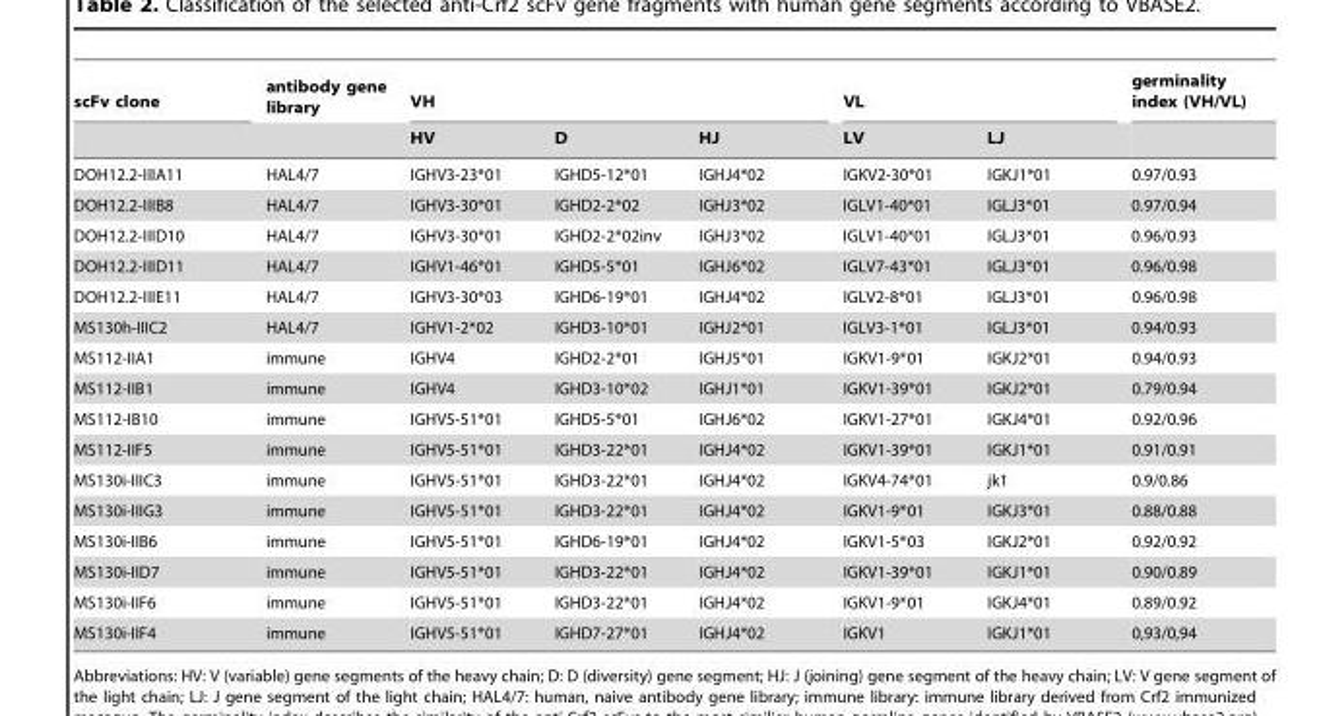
<table><thead><tr><td rowspan="2">scFv clone</td><td rowspan="2">antibody gene library</td><td colspan="3">VH</td><td colspan="2">VL</td><td rowspan="2">germinality index (VH/VL)</td></tr><tr><td>HV</td><td>D</td><td>HJ</td><td>LV</td><td>LJ</td></tr></thead><tbody><tr><td>DOH12.2-IIIA11</td><td>HAL4/7</td><td>IGHV3-23*01</td><td>IGHD5-12*01</td><td>IGHJ4*02</td><td>IGKV2-30*01</td><td>IGKJ1*01</td><td>0.97/0.93</td></tr><tr><td>DOH12.2-IIIB8</td><td>HAL4/7</td><td>IGHV3-30*01</td><td>IGHD2-2*02</td><td>IGHJ3*02</td><td>IGLV1-40*01</td><td>IGLJ3*01</td><td>0.97/0.94</td></tr><tr><td>DOH12.2-IIID10</td><td>HAL4/7</td><td>IGHV3-30*01</td><td>IGHD2-2*02inv</td><td>IGHJ3*02</td><td>IGLV1-40*01</td><td>IGLJ3*01</td><td>0.96/0.93</td></tr><tr><td>DOH12.2-IIID11</td><td>HAL4/7</td><td>IGHV1-46*01</td><td>IGHD5-5*01</td><td>IGHJ6*02</td><td>IGLV7-43*01</td><td>IGLJ3*01</td><td>0.96/0.98</td></tr><tr><td>DOH12.2-IIIE11</td><td>HAL4/7</td><td>IGHV3-30*03</td><td>IGHD6-19*01</td><td>IGHJ4*02</td><td>IGLV2-8*01</td><td>IGLJ3*01</td><td>0.96/0.98</td></tr><tr><td>MS130h-IIIC2</td><td>HAL4/7</td><td>IGHV1-2*02</td><td>IGHD3-10*01</td><td>IGHJ2*01</td><td>IGLV3-1*01</td><td>IGLJ3*01</td><td>0.94/0.93</td></tr><tr><td>MS112-IIA1</td><td>immune</td><td>IGHV4</td><td>IGHD2-2*01</td><td>IGHJ5*01</td><td>IGKV1-9*01</td><td>IGKJ2*01</td><td>0.94/0.93</td></tr><tr><td>MS112-IIB1</td><td>immune</td><td>IGHV4</td><td>IGHD3-10*02</td><td>IGHJ1*01</td><td>IGKV1-39*01</td><td>IGKJ2*01</td><td>0.79/0.94</td></tr><tr><td>MS112-IB10</td><td>immune</td><td>IGHV5-51*01</td><td>IGHD5-5*01</td><td>IGHJ6*02</td><td>IGKV1-27*01</td><td>IGKJ4*01</td><td>0.92/0.96</td></tr><tr><td>MS112-IIF5</td><td>immune</td><td>IGHV5-51*01</td><td>IGHD3-22*01</td><td>IGHJ4*02</td><td>IGKV1-39*01</td><td>IGKJ1*01</td><td>0.91/0.91</td></tr><tr><td>MS130i-IIIC3</td><td>immune</td><td>IGHV5-51*01</td><td>IGHD3-22*01</td><td>IGHJ4*02</td><td>IGKV4-74*01</td><td>jk1</td><td>0.9/0.86</td></tr><tr><td>MS130i-IIIG3</td><td>immune</td><td>IGHV5-51*01</td><td>IGHD3-22*01</td><td>IGHJ4*02</td><td>IGKV1-9*01</td><td>IGKJ3*01</td><td>0.88/0.88</td></tr><tr><td>MS130i-IIB6</td><td>immune</td><td>IGHV5-51*01</td><td>IGHD6-19*01</td><td>IGHJ4*02</td><td>IGKV1-5*03</td><td>IGKJ2*01</td><td>0.92/0.92</td></tr><tr><td>MS130i-IID7</td><td>immune</td><td>IGHV5-51*01</td><td>IGHD3-22*01</td><td>IGHJ4*02</td><td>IGKV1-39*01</td><td>IGKJ1*01</td><td>0.90/0.89</td></tr><tr><td>MS130i-IIF6</td><td>immune</td><td>IGHV5-51*01</td><td>IGHD3-22*01</td><td>IGHJ4*02</td><td>IGKV1-9*01</td><td>IGKJ4*01</td><td>0.89/0.92</td></tr><tr><td>MS130i-IIF4</td><td>immune</td><td>IGHV5-51*01</td><td>IGHD7-27*01</td><td>IGHJ4*02</td><td>IGKV1</td><td>IGKJ1*01</td><td>0,93/0,94</td></tr></tbody></table>